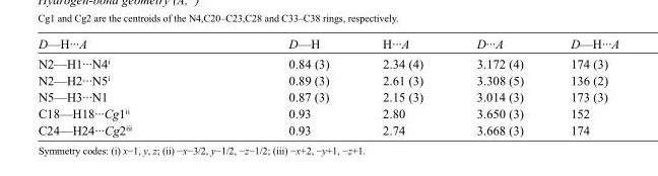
<table><tbody><tr><td>D—H···A</td><td>D—H</td><td>H···A</td><td>D···A</td><td>D—H···A</td></tr><tr><td>N2—H1···N4<sup>i</sup></td><td>0.84 (3)</td><td>2.34 (4)</td><td>3.172 (4)</td><td>174 (3)</td></tr><tr><td>N2—H2···N5<sup>i</sup></td><td>0.89 (3)</td><td>2.61 (3)</td><td>3.308 (5)</td><td>136 (2)</td></tr><tr><td>N5—H3···N1</td><td>0.87 (3)</td><td>2.15 (3)</td><td>3.014 (3)</td><td>173 (3)</td></tr><tr><td>C18—H18···Cg1<sup>ii</sup></td><td>0.93</td><td>2.80</td><td>3.650 (3)</td><td>152</td></tr><tr><td>C24—H24···Cg2<sup>iii</sup></td><td>0.93</td><td>2.74</td><td>3.668 (3)</td><td>174</td></tr></tbody></table>